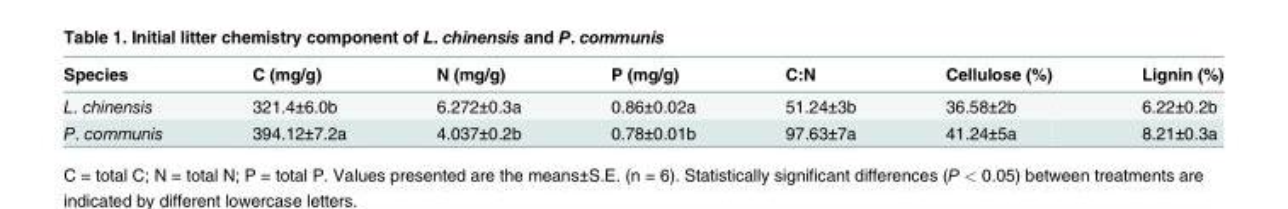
<table><thead><tr><td>Species</td><td>C (mg/g)</td><td>N (mg/g)</td><td>P (mg/g)</td><td>C:N</td><td>Cellulose (%)</td><td>Lignin (%)</td></tr></thead><tbody><tr><td>L. chinensis</td><td>321.4±6.0b</td><td>6.272±0.3a</td><td>0.86±0.02a</td><td>51.24±3b</td><td>36.58±2b</td><td>6.22±0.2b</td></tr><tr><td>P. communis</td><td>394.12±7.2a</td><td>4.037±0.2b</td><td>0.78±0.01b</td><td>97.63±7a</td><td>41.24±5a</td><td>8.21±0.3a</td></tr></tbody></table>